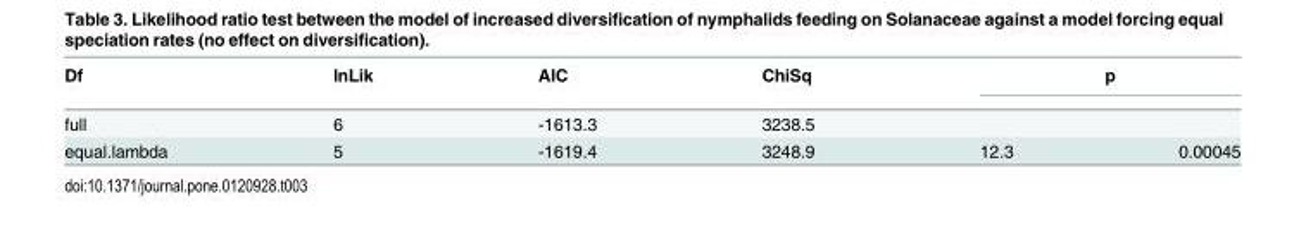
<table><thead><tr><td rowspan="2">Df full</td><td rowspan="2">lnLik 6</td><td rowspan="2">AIC -1613.3</td><td rowspan="2">ChiSq 3238.5</td><td colspan="2">p</td></tr><tr><td></td><td></td></tr></thead><tbody><tr><td>equal.lambda</td><td>5</td><td>-1619.4</td><td>3248.9</td><td>12.3</td><td>0.00045</td></tr></tbody></table>